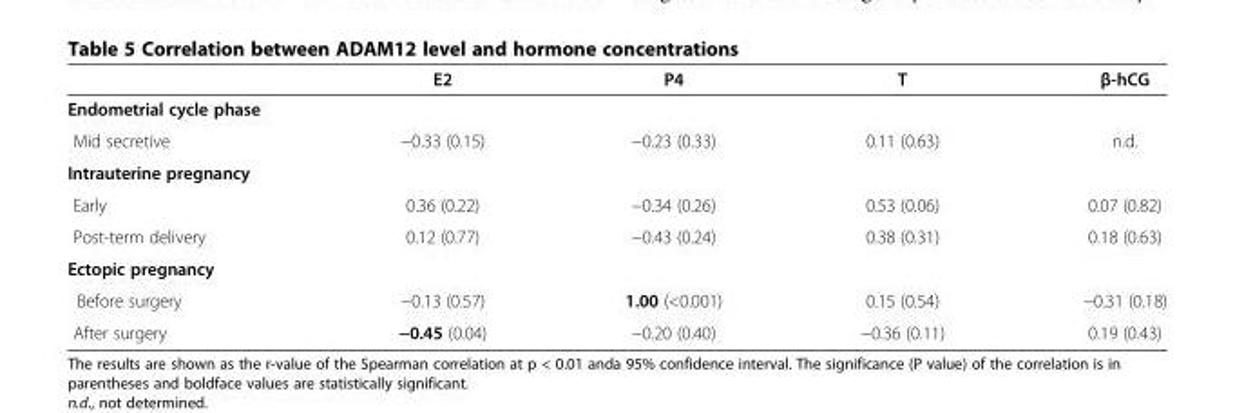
<table><thead><tr><td></td><td>E2</td><td>P4</td><td>T</td><td>β-hCG</td></tr></thead><tbody><tr><td colspan="5">Endometrial cycle phase</td></tr><tr><td>Mid secretive</td><td>−0.33 (0.15)</td><td>−0.23 (0.33)</td><td>0.11 (0.63)</td><td>n.d.</td></tr><tr><td colspan="5">Intrauterine pregnancy</td></tr><tr><td>Early</td><td>0.36 (0.22)</td><td>−0.34 (0.26)</td><td>0.53 (0.06)</td><td>0.07 (0.82)</td></tr><tr><td>Post-term delivery</td><td>0.12 (0.77)</td><td>−0.43 (0.24)</td><td>0.38 (0.31)</td><td>0.18 (0.63)</td></tr><tr><td colspan="5">Ectopic pregnancy</td></tr><tr><td>Before surgery</td><td>−0.13 (0.57)</td><td>1.00 (&lt;0.001)</td><td>0.15 (0.54)</td><td>−0.31 (0.18)</td></tr><tr><td>After surgery</td><td>−0.45 (0.04)</td><td>−0.20 (0.40)</td><td>−0.36 (0.11)</td><td>0.19 (0.43)</td></tr></tbody></table>